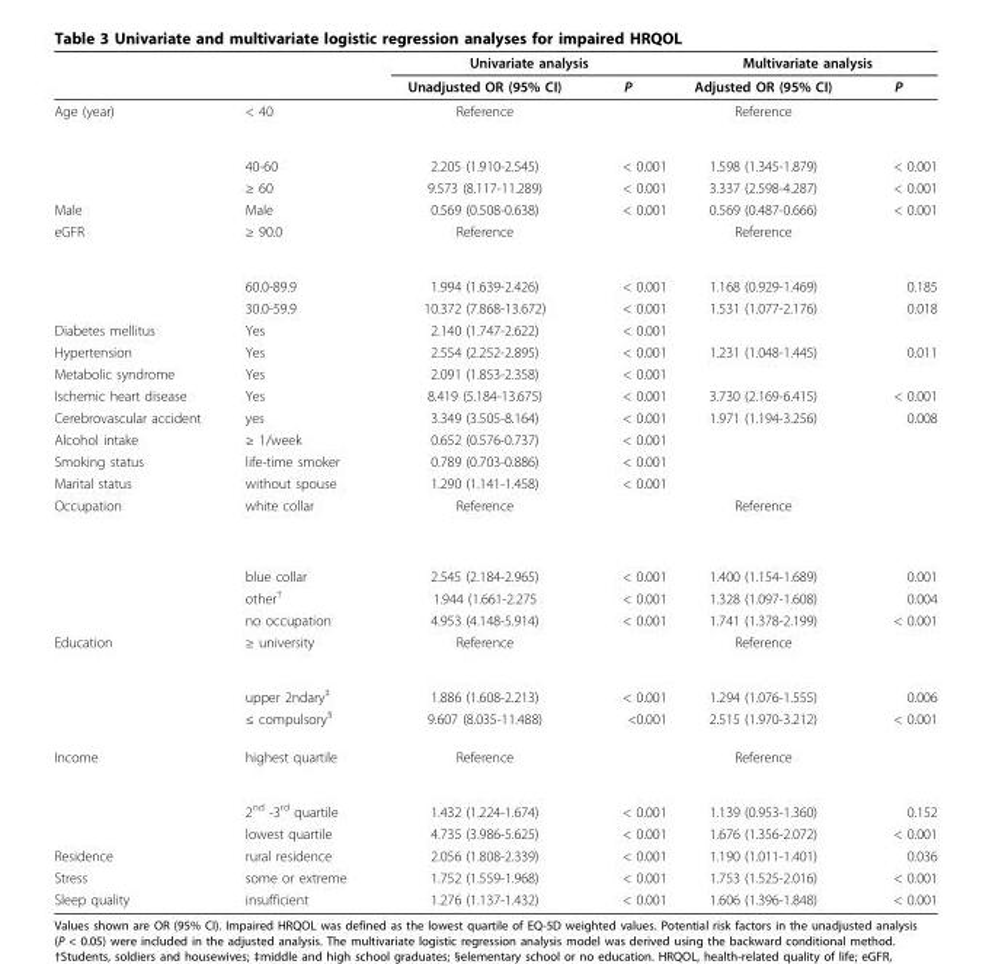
<table><thead><tr><td rowspan="2"></td><td rowspan="2"></td><td colspan="2">Univariate analysis</td><td colspan="2">Multivariate analysis</td></tr><tr><td>Unadjusted OR (95% CI)</td><td>P</td><td>Adjusted OR (95% CI)</td><td>P</td></tr></thead><tbody><tr><td rowspan="3">Age (year)</td><td>&lt; 40</td><td>Reference</td><td></td><td>Reference</td><td></td></tr><tr><td>40-60</td><td>2.205 (1.910-2.545)</td><td>&lt; 0.001</td><td>1.598 (1.345-1.879)</td><td>&lt; 0.001</td></tr><tr><td>≥ 60</td><td>9.573 (8.117-11.289)</td><td>&lt; 0.001</td><td>3.337 (2.598-4.287)</td><td>&lt; 0.001</td></tr><tr><td>Male</td><td>Male</td><td>0.569 (0.508-0.638)</td><td>&lt; 0.001</td><td>0.569 (0.487-0.666)</td><td>&lt; 0.001</td></tr><tr><td rowspan="3">eGFR</td><td>≥ 90.0</td><td>Reference</td><td></td><td>Reference</td><td></td></tr><tr><td>60.0-89.9</td><td>1.994 (1.639-2.426)</td><td>&lt; 0.001</td><td>1.168 (0.929-1.469)</td><td>0.185</td></tr><tr><td>30.0-59.9</td><td>10.372 (7.868-13.672)</td><td>&lt; 0.001</td><td>1.531 (1.077-2.176)</td><td>0.018</td></tr><tr><td>Diabetes mellitus</td><td>Yes</td><td>2.140 (1.747-2.622)</td><td>&lt; 0.001</td><td></td><td></td></tr><tr><td>Hypertension</td><td>Yes</td><td>2.554 (2.252-2.895)</td><td>&lt; 0.001</td><td>1.231 (1.048-1.445)</td><td>0.011</td></tr><tr><td>Metabolic syndrome</td><td>Yes</td><td>2.091 (1.853-2.358)</td><td>&lt; 0.001</td><td></td><td></td></tr><tr><td>Ischemic heart disease</td><td>Yes</td><td>8.419 (5.184-13.675)</td><td>&lt; 0.001</td><td>3.730 (2.169-6.415)</td><td>&lt; 0.001</td></tr><tr><td>Cerebrovascular accident</td><td>yes</td><td>3.349 (3.505-8.164)</td><td>&lt; 0.001</td><td>1.971 (1.194-3.256)</td><td>0.008</td></tr><tr><td>Alcohol intake</td><td>≥ 1/week</td><td>0.652 (0.576-0.737)</td><td>&lt; 0.001</td><td></td><td></td></tr><tr><td>Smoking status</td><td>life-time smoker</td><td>0.789 (0.703-0.886)</td><td>&lt; 0.001</td><td></td><td></td></tr><tr><td>Marital status</td><td>without spouse</td><td>1.290 (1.141-1.458)</td><td>&lt; 0.001</td><td></td><td></td></tr><tr><td rowspan="4">Occupation</td><td>white collar</td><td>Reference</td><td></td><td>Reference</td><td></td></tr><tr><td>blue collar</td><td>2.545 (2.184-2.965)</td><td>&lt; 0.001</td><td>1.400 (1.154-1.689)</td><td>0.001</td></tr><tr><td>other<sup>†</sup></td><td>1.944 (1.661-2.275</td><td>&lt; 0.001</td><td>1.328 (1.097-1.608)</td><td>0.004</td></tr><tr><td>no occupation</td><td>4.953 (4.148-5.914)</td><td>&lt; 0.001</td><td>1.741 (1.378-2.199)</td><td>&lt; 0.001</td></tr><tr><td rowspan="3">Education</td><td>≥ university</td><td>Reference</td><td></td><td>Reference</td><td></td></tr><tr><td>upper 2ndary<sup>‡</sup></td><td>1.886 (1.608-2.213)</td><td>&lt; 0.001</td><td>1.294 (1.076-1.555)</td><td>0.006</td></tr><tr><td>≤ compulsory<sup>§</sup></td><td>9.607 (8.035-11.488)</td><td>&lt;0.001</td><td>2.515 (1.970-3.212)</td><td>&lt; 0.001</td></tr><tr><td rowspan="3">Income</td><td>highest quartile</td><td>Reference</td><td></td><td>Reference</td><td></td></tr><tr><td>2<sup>nd</sup> -3<sup>rd</sup> quartile</td><td>1.432 (1.224-1.674)</td><td>&lt; 0.001</td><td>1.139 (0.953-1.360)</td><td>0.152</td></tr><tr><td>lowest quartile</td><td>4.735 (3.986-5.625)</td><td>&lt; 0.001</td><td>1.676 (1.356-2.072)</td><td>&lt; 0.001</td></tr><tr><td>Residence</td><td>rural residence</td><td>2.056 (1.808-2.339)</td><td>&lt; 0.001</td><td>1.190 (1.011-1.401)</td><td>0.036</td></tr><tr><td>Stress</td><td>some or extreme</td><td>1.752 (1.559-1.968)</td><td>&lt; 0.001</td><td>1.753 (1.525-2.016)</td><td>&lt; 0.001</td></tr><tr><td>Sleep quality</td><td>insufficient</td><td>1.276 (1.137-1.432)</td><td>&lt; 0.001</td><td>1.606 (1.396-1.848)</td><td>&lt; 0.001</td></tr></tbody></table>